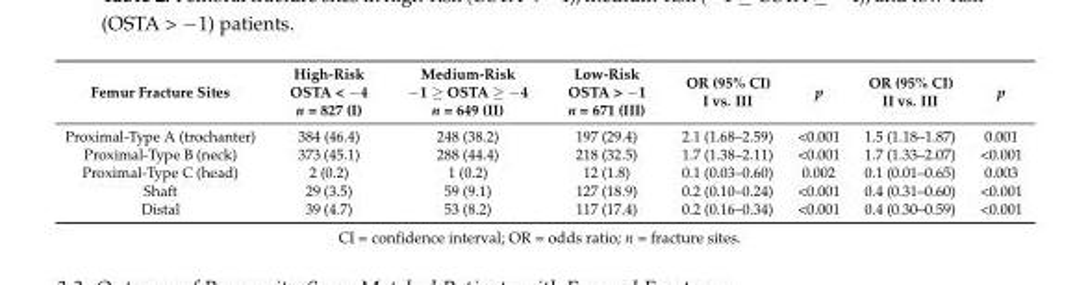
<table><thead><tr><td>Femur Fracture Sites</td><td>High-Risk OSTA &lt; −4 n = 827 (I)</td><td>Medium-Risk −1 ≥ OSTA ≥ −4 n = 649 (II)</td><td>Low-Risk OSTA &gt; −1 n = 671 (III)</td><td>OR (95% CI) I vs. III</td><td>p</td><td>OR (95% CI) II vs. III</td><td>p</td></tr></thead><tbody><tr><td>Proximal-Type A (trochanter)</td><td>384 (46.4)</td><td>248 (38.2)</td><td>197 (29.4)</td><td>2.1 (1.68–2.59)</td><td>&lt;0.001</td><td>1.5 (1.18–1.87)</td><td>0.001</td></tr><tr><td>Proximal-Type B (neck)</td><td>373 (45.1)</td><td>288 (44.4)</td><td>218 (32.5)</td><td>1.7 (1.38–2.11)</td><td>&lt;0.001</td><td>1.7 (1.33–2.07)</td><td>&lt;0.001</td></tr><tr><td>Proximal-Type C (head)</td><td>2 (0.2)</td><td>1 (0.2)</td><td>12 (1.8)</td><td>0.1 (0.03–0.60)</td><td>0.002</td><td>0.1 (0.01–0.65)</td><td>0.003</td></tr><tr><td>Shaft</td><td>29 (3.5)</td><td>59 (9.1)</td><td>127 (18.9)</td><td>0.2 (0.10–0.24)</td><td>&lt;0.001</td><td>0.4 (0.31–0.60)</td><td>&lt;0.001</td></tr><tr><td>Distal</td><td>39 (4.7)</td><td>53 (8.2)</td><td>117 (17.4)</td><td>0.2 (0.16–0.34)</td><td>&lt;0.001</td><td>0.4 (0.30–0.59)</td><td>&lt;0.001</td></tr></tbody></table>